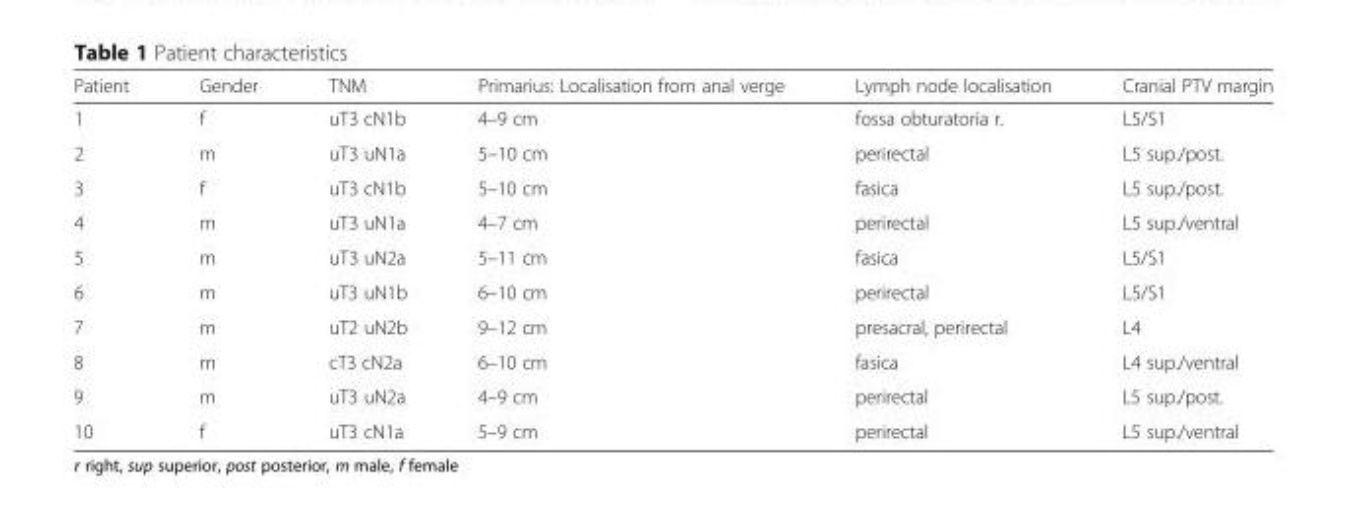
<table><thead><tr><td>Patient</td><td>Gender</td><td>TNM</td><td>Primarius: Localisation from anal verge</td><td>Lymph node localisation</td><td>Cranial PTV margin</td></tr></thead><tbody><tr><td>1</td><td>f</td><td>uT3 cN1b</td><td>4–9 cm</td><td>fossa obturatoria r.</td><td>L5/S1</td></tr><tr><td>2</td><td>m</td><td>uT3 uN1a</td><td>5–10 cm</td><td>perirectal</td><td>L5 sup./post.</td></tr><tr><td>3</td><td>f</td><td>uT3 cN1b</td><td>5–10 cm</td><td>fasica</td><td>L5 sup./post.</td></tr><tr><td>4</td><td>m</td><td>uT3 uN1a</td><td>4–7 cm</td><td>perirectal</td><td>L5 sup./ventral</td></tr><tr><td>5</td><td>m</td><td>uT3 uN2a</td><td>5–11 cm</td><td>fasica</td><td>L5/S1</td></tr><tr><td>6</td><td>m</td><td>uT3 uN1b</td><td>6–10 cm</td><td>perirectal</td><td>L5/S1</td></tr><tr><td>7</td><td>m</td><td>uT2 uN2b</td><td>9–12 cm</td><td>presacral, perirectal</td><td>L4</td></tr><tr><td>8</td><td>m</td><td>cT3 cN2a</td><td>6–10 cm</td><td>fasica</td><td>L4 sup./ventral</td></tr><tr><td>9</td><td>m</td><td>uT3 uN2a</td><td>4–9 cm</td><td>perirectal</td><td>L5 sup./post.</td></tr><tr><td>10</td><td>f</td><td>uT3 cN1a</td><td>5–9 cm</td><td>perirectal</td><td>L5 sup./ventral</td></tr></tbody></table>